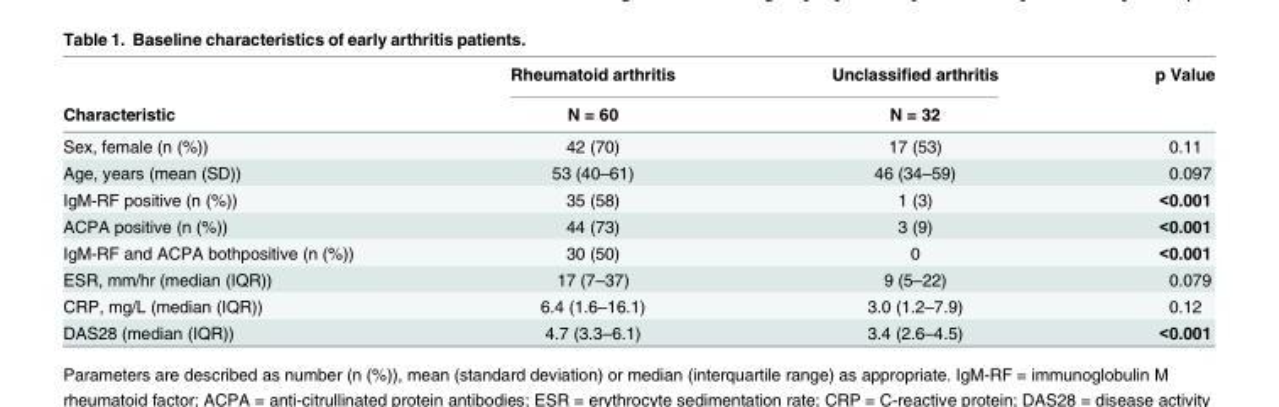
<table><thead><tr><td rowspan="2">Characteristic</td><td rowspan="2">Rheumatoid arthritis N = 60</td><td rowspan="2">Unclassified arthritis N = 32</td><td rowspan="2">p Value</td></tr><tr></tr></thead><tbody><tr><td>Sex, female (n (%))</td><td>42 (70)</td><td>17 (53)</td><td>0.11</td></tr><tr><td>Age, years (mean (SD))</td><td>53 (40–61)</td><td>46 (34–59)</td><td>0.097</td></tr><tr><td>IgM-RF positive (n (%))</td><td>35 (58)</td><td>1 (3)</td><td>&lt;0.001</td></tr><tr><td>ACPA positive (n (%))</td><td>44 (73)</td><td>3 (9)</td><td>&lt;0.001</td></tr><tr><td>IgM-RF and ACPA bothpositive (n (%))</td><td>30 (50)</td><td>0</td><td>&lt;0.001</td></tr><tr><td>ESR, mm/hr (median (IQR))</td><td>17 (7–37)</td><td>9 (5–22)</td><td>0.079</td></tr><tr><td>CRP, mg/L (median (IQR))</td><td>6.4 (1.6–16.1)</td><td>3.0 (1.2–7.9)</td><td>0.12</td></tr><tr><td>DAS28 (median (IQR))</td><td>4.7 (3.3–6.1)</td><td>3.4 (2.6–4.5)</td><td>&lt;0.001</td></tr></tbody></table>